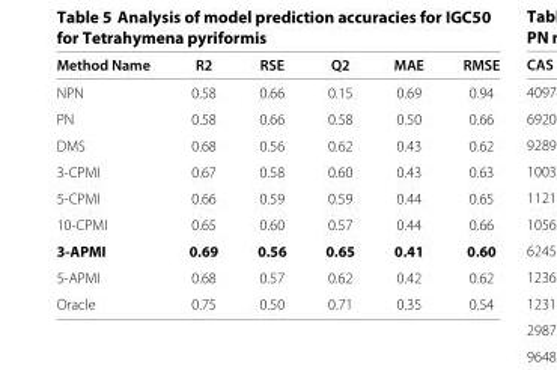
<table><thead><tr><td>Method Name</td><td>R2</td><td>RSE</td><td>Q2</td><td>MAE</td><td>RMSE</td></tr></thead><tbody><tr><td>NPN</td><td>0.58</td><td>0.66</td><td>0.15</td><td>0.69</td><td>0.94</td></tr><tr><td>PN</td><td>0.58</td><td>0.66</td><td>0.58</td><td>0.50</td><td>0.66</td></tr><tr><td>DMS</td><td>0.68</td><td>0.56</td><td>0.62</td><td>0.43</td><td>0.62</td></tr><tr><td>3-CPMI</td><td>0.67</td><td>0.58</td><td>0.60</td><td>0.43</td><td>0.63</td></tr><tr><td>5-CPMI</td><td>0.66</td><td>0.59</td><td>0.59</td><td>0.44</td><td>0.65</td></tr><tr><td>10-CPMI</td><td>0.65</td><td>0.60</td><td>0.57</td><td>0.44</td><td>0.66</td></tr><tr><td>3-APMI</td><td>0.69</td><td>0.56</td><td>0.65</td><td>0.41</td><td>0.60</td></tr><tr><td>5-APMI</td><td>0.68</td><td>0.57</td><td>0.62</td><td>0.42</td><td>0.62</td></tr><tr><td>Oracle</td><td>0.75</td><td>0.50</td><td>0.71</td><td>0.35</td><td>0.54</td></tr></tbody></table>